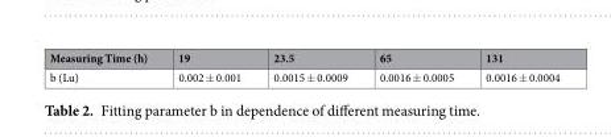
<table><thead><tr><td>Measuring Time (h)</td><td>19</td><td>23.5</td><td>65</td><td>131</td></tr></thead><tbody><tr><td>b (Lu)</td><td>0.002 ± 0.001</td><td>0.0015 ± 0.0009</td><td>0.0016 ± 0.0005</td><td>0.0016 ± 0.0004</td></tr></tbody></table>